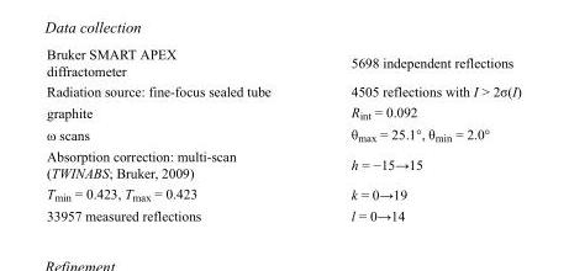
<table><tbody><tr><td>Bruker SMART APEX diffractometer</td><td>5698 independent reflections</td></tr><tr><td>Radiation source: fine-focus sealed tube</td><td>4505 reflections with I &gt; 2σ(I)</td></tr><tr><td>graphite</td><td>R<sub>int</sub> = 0.092</td></tr><tr><td>ω scans</td><td>θ<sub>max</sub> = 25.1°, θ<sub>min</sub> = 2.0°</td></tr><tr><td>Absorption correction: multi-scan (TWINABS; Bruker, 2009)</td><td>h = −15→15</td></tr><tr><td>T<sub>min</sub> = 0.423, T<sub>max</sub> = 0.423</td><td>k = 0→19</td></tr><tr><td>33957 measured reflections</td><td>l = 0→14</td></tr></tbody></table>